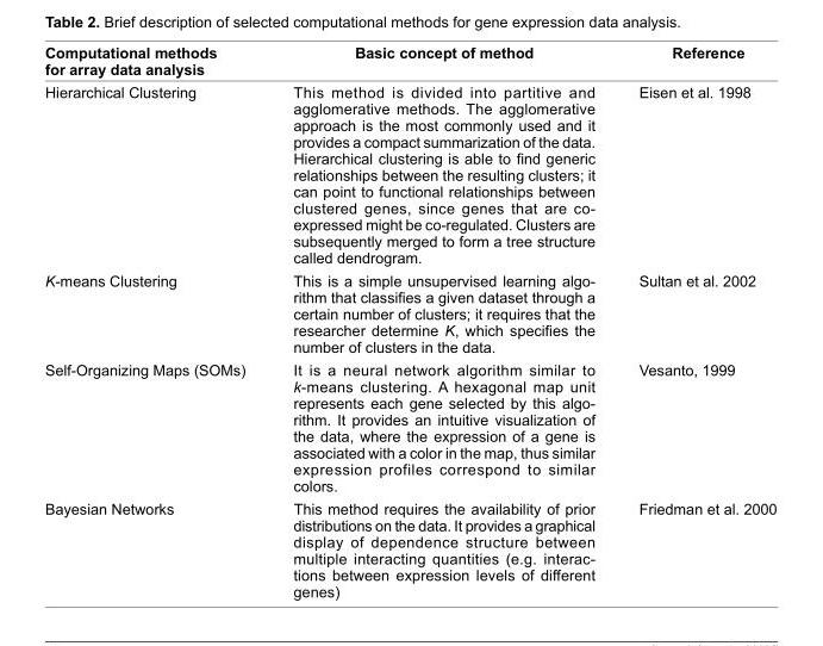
<table><thead><tr><td>Computational methods for array data analysis</td><td>Basic concept of method</td><td>Reference</td></tr></thead><tbody><tr><td>Hierarchical Clustering</td><td>This method is divided into partitive and agglomerative methods. The agglomerative approach is the most commonly used and it provides a compact summarization of the data. Hierarchical clustering is able to fi nd generic relationships between the resulting clusters; it can point to functional relationships between clustered genes, since genes that are co- expressed might be co-regulated. Clusters are subsequently merged to form a tree structure called dendrogram.</td><td>Eisen et al. 1998</td></tr><tr><td>K-means Clustering</td><td>This is a simple unsupervised learning algo- rithm that classifi es a given dataset through a certain number of clusters; it requires that the researcher determine K, which specifi es the number of clusters in the data.</td><td>Sultan et al. 2002</td></tr><tr><td>Self-Organizing Maps (SOMs)</td><td>It is a neural network algorithm similar to k-means clustering. A hexagonal map unit represents each gene selected by this algo- rithm. It provides an intuitive visualization of the data, where the expression of a gene is associated with a color in the map, thus similar expression profiles correspond to similar colors.</td><td>Vesanto, 1999</td></tr><tr><td>Bayesian Networks</td><td>This method requires the availability of prior distributions on the data. It provides a graphical display of dependence structure between multiple interacting quantities (e.g. interac- tions between expression levels of different genes)</td><td>Friedman et al. 2000</td></tr></tbody></table>